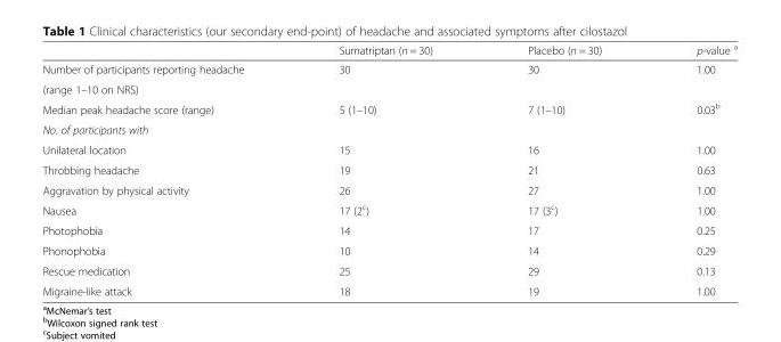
<table><thead><tr><td></td><td>Sumatriptan (n = 30)</td><td>Placebo (n = 30)</td><td>p-value <sup>a</sup></td></tr></thead><tbody><tr><td>Number of participants reporting headache</td><td>30</td><td>30</td><td>1.00</td></tr><tr><td colspan="4">(range 1–10 on NRS)</td></tr><tr><td>Median peak headache score (range)</td><td>5 (1–10)</td><td>7 (1–10)</td><td>0.03<sup>b</sup></td></tr><tr><td colspan="4">No. of participants with</td></tr><tr><td>Unilateral location</td><td>15</td><td>16</td><td>1.00</td></tr><tr><td>Throbbing headache</td><td>19</td><td>21</td><td>0.63</td></tr><tr><td>Aggravation by physical activity</td><td>26</td><td>27</td><td>1.00</td></tr><tr><td>Nausea</td><td>17 (2<sup>c</sup>)</td><td>17 (3<sup>c</sup>)</td><td>1.00</td></tr><tr><td>Photophobia</td><td>14</td><td>17</td><td>0.25</td></tr><tr><td>Phonophobia</td><td>10</td><td>14</td><td>0.29</td></tr><tr><td>Rescue medication</td><td>25</td><td>29</td><td>0.13</td></tr><tr><td>Migraine-like attack</td><td>18</td><td>19</td><td>1.00</td></tr></tbody></table>